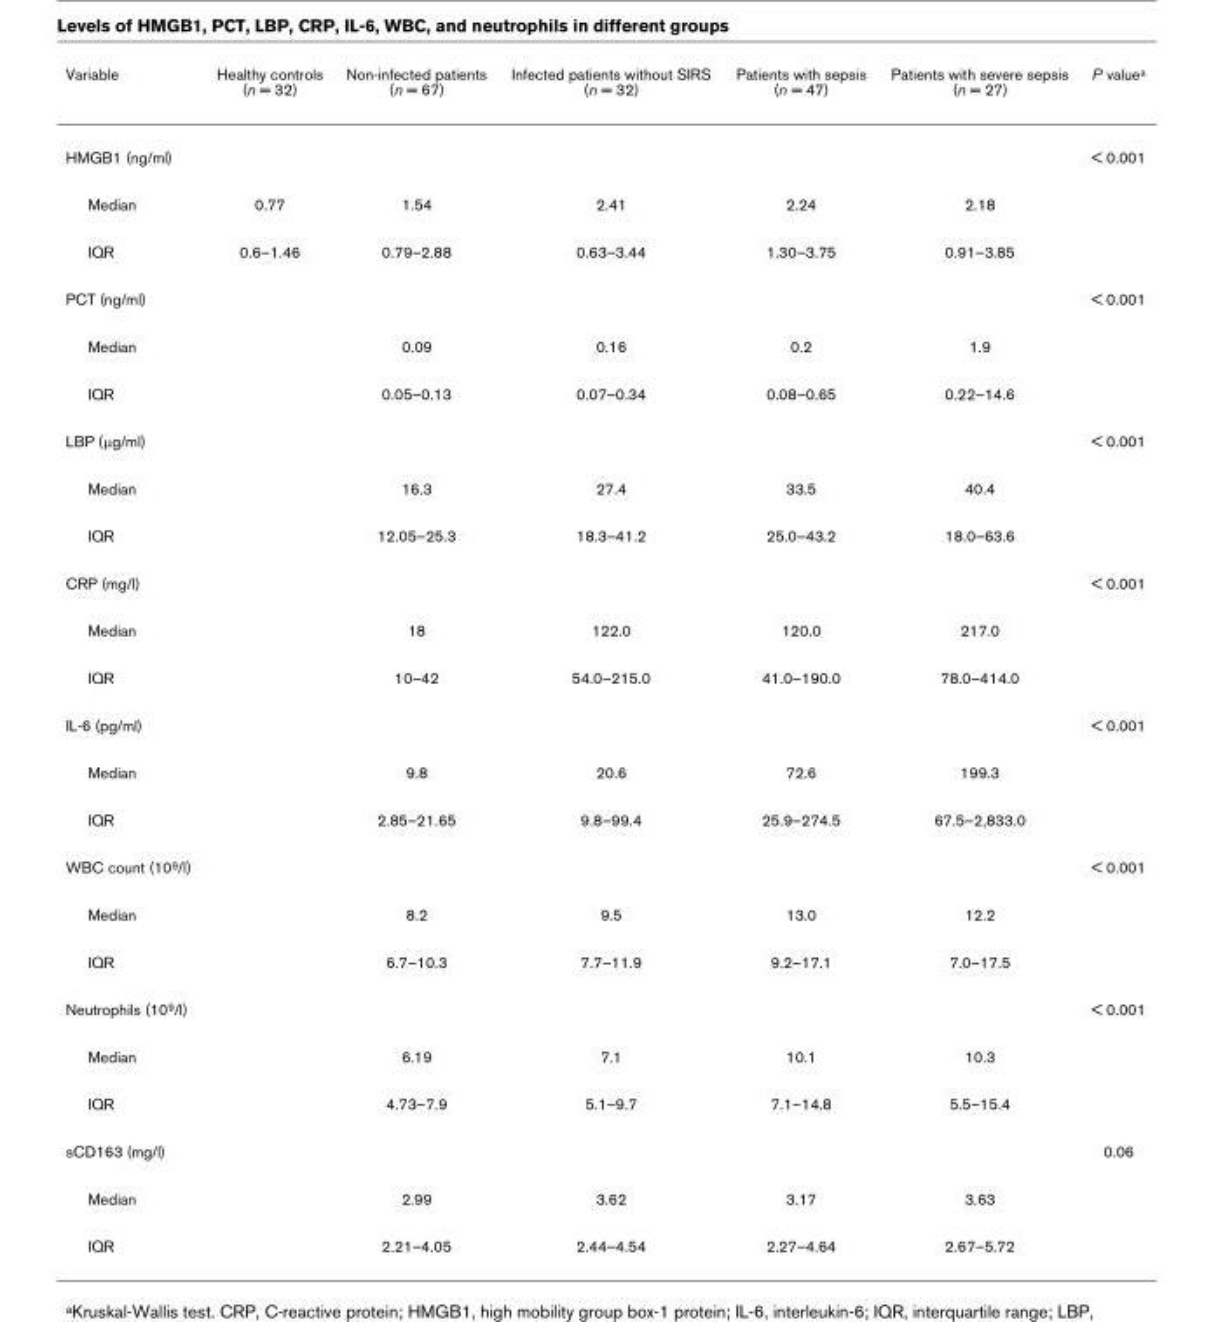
<table><thead><tr><td>Variable</td><td>Healthy controls (n = 32)</td><td>Non-infected patients (n = 67)</td><td>Infected patients without SIRS (n = 32)</td><td>Patients with sepsis (n = 47)</td><td>Patients with severe sepsis (n = 27)</td><td>P value<sup>a</sup></td></tr></thead><tbody><tr><td>HMGB1 (ng/ml)</td><td></td><td></td><td></td><td></td><td></td><td>&lt; 0.001</td></tr><tr><td>Median</td><td>0.77</td><td>1.54</td><td>2.41</td><td>2.24</td><td>2.18</td><td></td></tr><tr><td>IQR</td><td>0.6–1.46</td><td>0.79–2.88</td><td>0.63–3.44</td><td>1.30–3.75</td><td>0.91–3.85</td><td></td></tr><tr><td>PCT (ng/ml)</td><td></td><td></td><td></td><td></td><td></td><td>&lt; 0.001</td></tr><tr><td>Median</td><td></td><td>0.09</td><td>0.16</td><td>0.2</td><td>1.9</td><td></td></tr><tr><td>IQR</td><td></td><td>0.05–0.13</td><td>0.07–0.34</td><td>0.08–0.65</td><td>0.22–14.6</td><td></td></tr><tr><td>LBP (μg/ml)</td><td></td><td></td><td></td><td></td><td></td><td>&lt; 0.001</td></tr><tr><td>Median</td><td></td><td>16.3</td><td>27.4</td><td>33.5</td><td>40.4</td><td></td></tr><tr><td>IQR</td><td></td><td>12.05–25.3</td><td>18.3–41.2</td><td>25.0–43.2</td><td>18.0–63.6</td><td></td></tr><tr><td>CRP (mg/l)</td><td></td><td></td><td></td><td></td><td></td><td>&lt; 0.001</td></tr><tr><td>Median</td><td></td><td>18</td><td>122.0</td><td>120.0</td><td>217.0</td><td></td></tr><tr><td>IQR</td><td></td><td>10–42</td><td>54.0–215.0</td><td>41.0–190.0</td><td>78.0–414.0</td><td></td></tr><tr><td>IL-6 (pg/ml)</td><td></td><td></td><td></td><td></td><td></td><td>&lt; 0.001</td></tr><tr><td>Median</td><td></td><td>9.8</td><td>20.6</td><td>72.6</td><td>199.3</td><td></td></tr><tr><td>IQR</td><td></td><td>2.85–21.65</td><td>9.8–99.4</td><td>25.9–274.5</td><td>67.5–2,833.0</td><td></td></tr><tr><td>WBC count (10<sup>9</sup>/l)</td><td></td><td></td><td></td><td></td><td></td><td>&lt; 0.001</td></tr><tr><td>Median</td><td></td><td>8.2</td><td>9.5</td><td>13.0</td><td>12.2</td><td></td></tr><tr><td>IQR</td><td></td><td>6.7–10.3</td><td>7.7–11.9</td><td>9.2–17.1</td><td>7.0–17.5</td><td></td></tr><tr><td>Neutrophils (10<sup>9</sup>/l)</td><td></td><td></td><td></td><td></td><td></td><td>&lt; 0.001</td></tr><tr><td>Median</td><td></td><td>6.19</td><td>7.1</td><td>10.1</td><td>10.3</td><td></td></tr><tr><td>IQR</td><td></td><td>4.73–7.9</td><td>5.1–9.7</td><td>7.1–14.8</td><td>5.5–15.4</td><td></td></tr><tr><td>sCD163 (mg/l)</td><td></td><td></td><td></td><td></td><td></td><td>0.06</td></tr><tr><td>Median</td><td></td><td>2.99</td><td>3.62</td><td>3.17</td><td>3.63</td><td></td></tr><tr><td>IQR</td><td></td><td>2.21–4.05</td><td>2.44–4.54</td><td>2.27–4.64</td><td>2.67–5.72</td><td></td></tr></tbody></table>